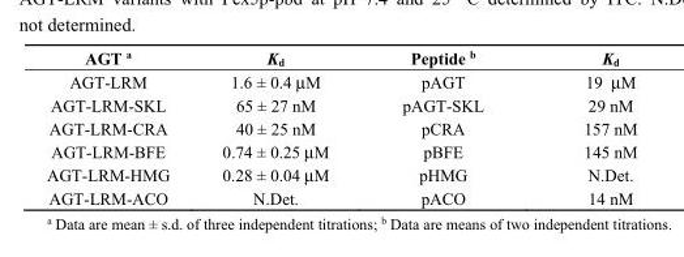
<table><thead><tr><td>AGT <sup>a</sup></td><td>K<sub>d</sub></td><td>Peptide <sup>b</sup></td><td>K<sub>d</sub></td></tr></thead><tbody><tr><td>AGT-LRM</td><td>1.6 ± 0.4 μM</td><td>pAGT</td><td>19 μM</td></tr><tr><td>AGT-LRM-SKL</td><td>65 ± 27 nM</td><td>pAGT-SKL</td><td>29 nM</td></tr><tr><td>AGT-LRM-CRA</td><td>40 ± 25 nM</td><td>pCRA</td><td>157 nM</td></tr><tr><td>AGT-LRM-BFE</td><td>0.74 ± 0.25 μM</td><td>pBFE</td><td>145 nM</td></tr><tr><td>AGT-LRM-HMG</td><td>0.28 ± 0.04 μM</td><td>pHMG</td><td>N.Det.</td></tr><tr><td>AGT-LRM-ACO</td><td>N.Det.</td><td>pACO</td><td>14 nM</td></tr></tbody></table>